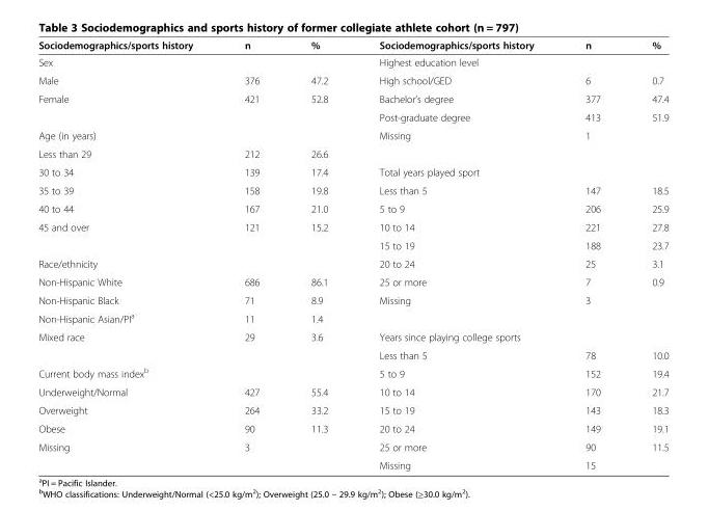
<table><thead><tr><td>Sociodemographics/sports history</td><td>n</td><td>%</td><td>Sociodemographics/sports history</td><td>n</td><td>%</td></tr></thead><tbody><tr><td>Sex</td><td></td><td></td><td colspan="3">Highest education level</td></tr><tr><td>Male</td><td>376</td><td>47.2</td><td>High school/GED</td><td>6</td><td>0.7</td></tr><tr><td rowspan="2">Female</td><td>421</td><td>52.8</td><td>Bachelor’s degree</td><td>377</td><td>47.4</td></tr><tr><td></td><td></td><td>Post-graduate degree</td><td>413</td><td>51.9</td></tr><tr><td>Age (in years)</td><td></td><td></td><td>Missing</td><td>1</td><td></td></tr><tr><td>Less than 29</td><td>212</td><td>26.6</td><td></td><td></td><td></td></tr><tr><td>30 to 34</td><td>139</td><td>17.4</td><td colspan="3">Total years played sport</td></tr><tr><td>35 to 39</td><td>158</td><td>19.8</td><td>Less than 5</td><td>147</td><td>18.5</td></tr><tr><td>40 to 44</td><td>167</td><td>21.0</td><td>5 to 9</td><td>206</td><td>25.9</td></tr><tr><td rowspan="2">45 and over</td><td>121</td><td>15.2</td><td>10 to 14</td><td>221</td><td>27.8</td></tr><tr><td></td><td></td><td>15 to 19</td><td>188</td><td>23.7</td></tr><tr><td>Race/ethnicity</td><td></td><td></td><td>20 to 24</td><td>25</td><td>3.1</td></tr><tr><td>Non-Hispanic White</td><td>686</td><td>86.1</td><td>25 or more</td><td>7</td><td>0.9</td></tr><tr><td>Non-Hispanic Black</td><td>71</td><td>8.9</td><td>Missing</td><td>3</td><td></td></tr><tr><td>Non-Hispanic Asian/PI<sup>a</sup></td><td>11</td><td>1.4</td><td></td><td></td><td></td></tr><tr><td rowspan="2">Mixed race</td><td>29</td><td>3.6</td><td colspan="3">Years since playing college sports</td></tr><tr><td></td><td></td><td>Less than 5</td><td>78</td><td>10.0</td></tr><tr><td>Current body mass index<sup>b</sup></td><td></td><td></td><td>5 to 9</td><td>152</td><td>19.4</td></tr><tr><td>Underweight/Normal</td><td>427</td><td>55.4</td><td>10 to 14</td><td>170</td><td>21.7</td></tr><tr><td>Overweight</td><td>264</td><td>33.2</td><td>15 to 19</td><td>143</td><td>18.3</td></tr><tr><td>Obese</td><td>90</td><td>11.3</td><td>20 to 24</td><td>149</td><td>19.1</td></tr><tr><td rowspan="2">Missing</td><td>3</td><td></td><td>25 or more</td><td>90</td><td>11.5</td></tr><tr><td></td><td></td><td>Missing</td><td>15</td><td></td></tr></tbody></table>